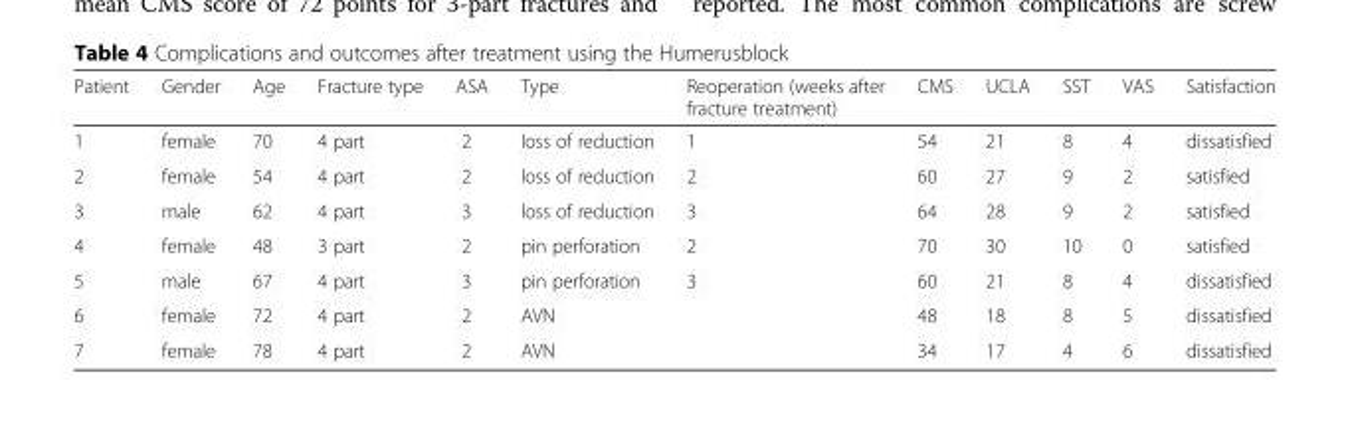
<table><thead><tr><td>Patient</td><td>Gender</td><td>Age</td><td>Fracture type</td><td>ASA</td><td>Type</td><td>Reoperation (weeks after fracture treatment)</td><td>CMS</td><td>UCLA</td><td>SST</td><td>VAS</td><td>Satisfaction</td></tr></thead><tbody><tr><td>1</td><td>female</td><td>70</td><td>4 part</td><td>2</td><td>loss of reduction</td><td>1</td><td>54</td><td>21</td><td>8</td><td>4</td><td>dissatisfied</td></tr><tr><td>2</td><td>female</td><td>54</td><td>4 part</td><td>2</td><td>loss of reduction</td><td>2</td><td>60</td><td>27</td><td>9</td><td>2</td><td>satisfied</td></tr><tr><td>3</td><td>male</td><td>62</td><td>4 part</td><td>3</td><td>loss of reduction</td><td>3</td><td>64</td><td>28</td><td>9</td><td>2</td><td>satisfied</td></tr><tr><td>4</td><td>female</td><td>48</td><td>3 part</td><td>2</td><td>pin perforation</td><td>2</td><td>70</td><td>30</td><td>10</td><td>0</td><td>satisfied</td></tr><tr><td>5</td><td>male</td><td>67</td><td>4 part</td><td>3</td><td>pin perforation</td><td>3</td><td>60</td><td>21</td><td>8</td><td>4</td><td>dissatisfied</td></tr><tr><td>6</td><td>female</td><td>72</td><td>4 part</td><td>2</td><td>AVN</td><td></td><td>48</td><td>18</td><td>8</td><td>5</td><td>dissatisfied</td></tr><tr><td>7</td><td>female</td><td>78</td><td>4 part</td><td>2</td><td>AVN</td><td></td><td>34</td><td>17</td><td>4</td><td>6</td><td>dissatisfied</td></tr></tbody></table>